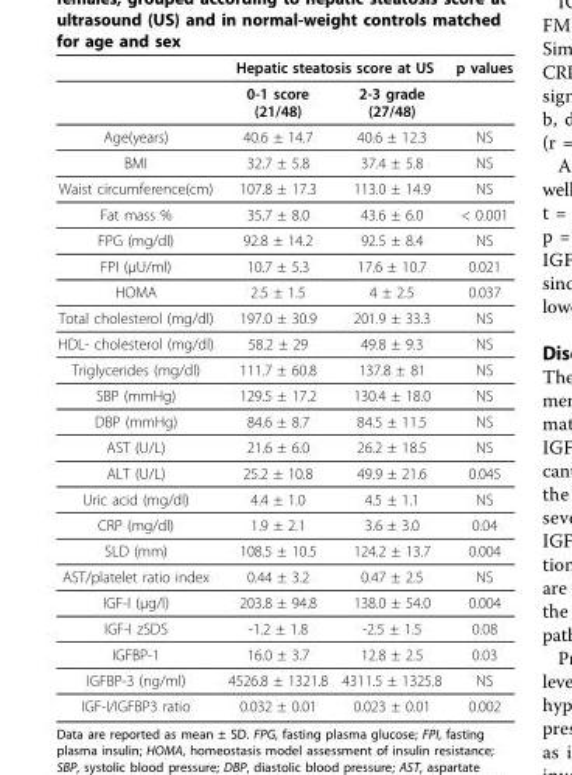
<table><thead><tr><td rowspan="2"></td><td colspan="2">Hepatic steatosis score at US</td><td rowspan="2">p values</td></tr><tr><td>0-1 score (21/48)</td><td>2-3 grade (27/48)</td></tr></thead><tbody><tr><td>Age(years)</td><td>40.6 ± 14.7</td><td>40.6 ± 12.3</td><td>NS</td></tr><tr><td>BMI</td><td>32.7 ± 5.8</td><td>37.4 ± 5.8</td><td>NS</td></tr><tr><td>Waist circumference(cm)</td><td>107.8 ± 17.3</td><td>113.0 ± 14.9</td><td>NS</td></tr><tr><td>Fat mass %</td><td>35.7 ± 8.0</td><td>43.6 ± 6.0</td><td>&lt; 0.001</td></tr><tr><td>FPG (mg/dl)</td><td>92.8 ± 14.2</td><td>92.5 ± 8.4</td><td>NS</td></tr><tr><td>FPI (μU/ml)</td><td>10.7 ± 5.3</td><td>17.6 ± 10.7</td><td>0.021</td></tr><tr><td>HOMA</td><td>2.5 ± 1.5</td><td>4 ± 2.5</td><td>0.037</td></tr><tr><td>Total cholesterol (mg/dl)</td><td>197.0 ± 30.9</td><td>201.9 ± 33.3</td><td>NS</td></tr><tr><td>HDL- cholesterol (mg/dl)</td><td>58.2 ± 29</td><td>49.8 ± 9.3</td><td>NS</td></tr><tr><td>Triglycerides (mg/dl)</td><td>111.7 ± 60.8</td><td>137.8 ± 81</td><td>NS</td></tr><tr><td>SBP (mmHg)</td><td>129.5 ± 17.2</td><td>130.4 ± 18.0</td><td>NS</td></tr><tr><td>DBP (mmHg)</td><td>84.6 ± 8.7</td><td>84.5 ± 11.5</td><td>NS</td></tr><tr><td>AST (U/L)</td><td>21.6 ± 6.0</td><td>26.2 ± 18.5</td><td>NS</td></tr><tr><td>ALT (U/L)</td><td>25.2 ± 10.8</td><td>49.9 ± 21.6</td><td>0.045</td></tr><tr><td>Uric acid (mg/dl)</td><td>4.4 ± 1.0</td><td>4.5 ± 1.1</td><td>NS</td></tr><tr><td>CRP (mg/dl)</td><td>1.9 ± 2.1</td><td>3.6 ± 3.0</td><td>0.04</td></tr><tr><td>SLD (mm)</td><td>108.5 ± 10.5</td><td>124.2 ± 13.7</td><td>0.004</td></tr><tr><td>AST/platelet ratio index</td><td>0.44 ± 3.2</td><td>0.47 ± 2.5</td><td>NS</td></tr><tr><td>IGF-I (μg/l)</td><td>203.8 ± 94.8</td><td>138.0 ± 54.0</td><td>0.004</td></tr><tr><td>IGF-I zSDS</td><td>-1.2 ± 1.8</td><td>-2.5 ± 1.5</td><td>0.08</td></tr><tr><td>IGFBP-1</td><td>16.0 ± 3.7</td><td>12.8 ± 2.5</td><td>0.03</td></tr><tr><td>IGFBP-3 (ng/ml)</td><td>4526.8 ± 1321.8</td><td>4311.5 ± 1325.8</td><td>NS</td></tr><tr><td>IGF-I/IGFBP3 ratio</td><td>0.032 ± 0.01</td><td>0.023 ± 0.01</td><td>0.002</td></tr></tbody></table>